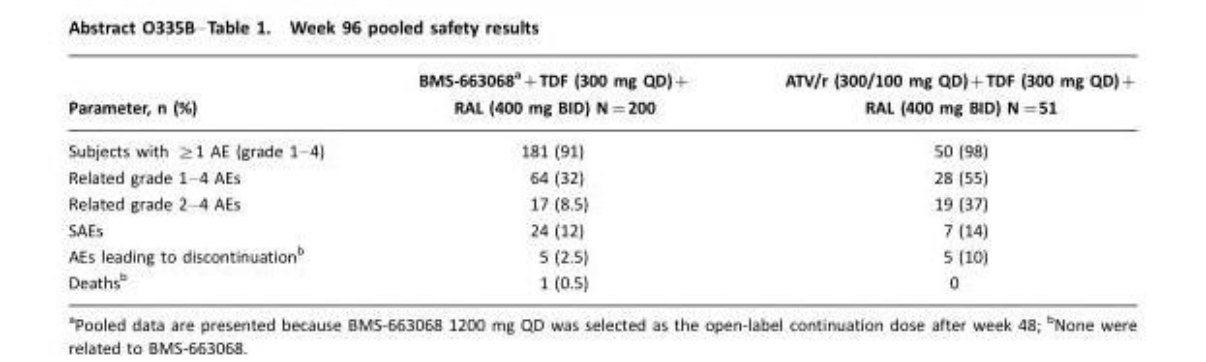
<table><thead><tr><td>Parameter, n (%)</td><td>BMS-663068a+TDF (300 mg QD)+ RAL (400 mg BID) N=200</td><td>ATV/r (300/100 mg QD)+TDF (300 mg QD)+ RAL (400 mg BID) N=51</td></tr></thead><tbody><tr><td>Subjects with ≥1 AE (grade 1–4)</td><td>181 (91)</td><td>50 (98)</td></tr><tr><td>Related grade 1–4 AEs</td><td>64 (32)</td><td>28 (55)</td></tr><tr><td>Related grade 2–4 AEs</td><td>17 (8.5)</td><td>19 (37)</td></tr><tr><td>SAEs</td><td>24 (12)</td><td>7 (14)</td></tr><tr><td>AEs leading to discontinuationb</td><td>5 (2.5)</td><td>5 (10)</td></tr><tr><td>Deathsb</td><td>1 (0.5)</td><td>0</td></tr></tbody></table>